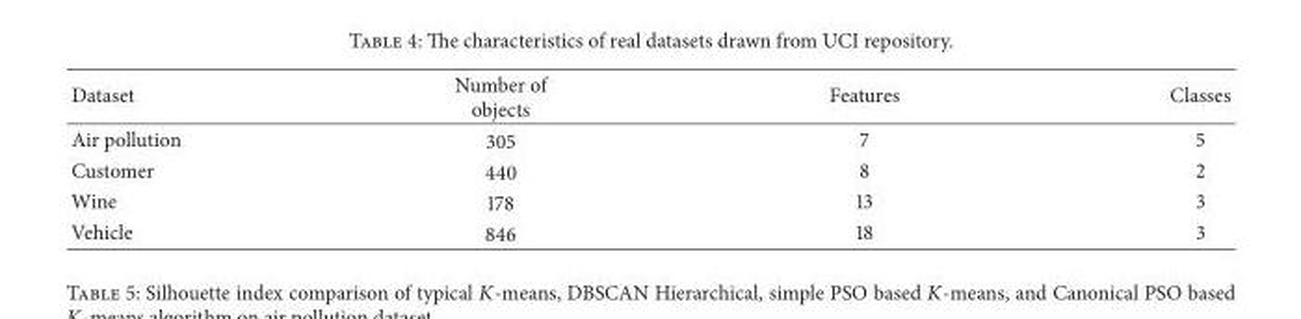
<table><thead><tr><td>Dataset</td><td>Number of objects</td><td>Features</td><td>Classes</td></tr></thead><tbody><tr><td>Air pollution</td><td>305</td><td>7</td><td>5</td></tr><tr><td>Customer</td><td>440</td><td>8</td><td>2</td></tr><tr><td>Wine</td><td>178</td><td>13</td><td>3</td></tr><tr><td>Vehicle</td><td>846</td><td>18</td><td>3</td></tr></tbody></table>